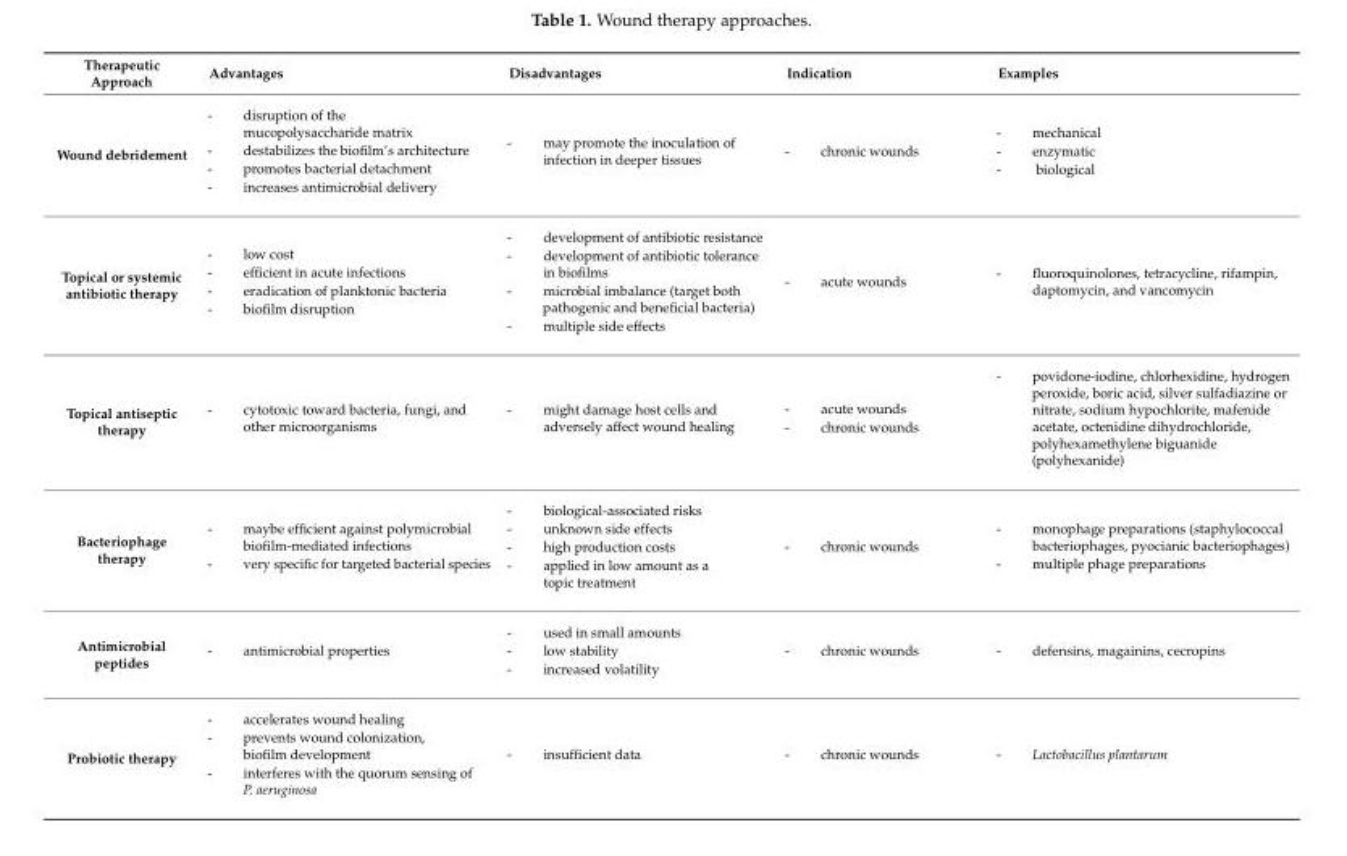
<table><thead><tr><td>Therapeutic Approach</td><td>Advantages</td><td>Disadvantages</td><td>Indication</td><td>Examples</td></tr></thead><tbody><tr><td>Wound debridement</td><td>- disruption of the mucopolysaccharide matrix - destabilizes the biofilm’s architecture - promotes bacterial detachment - increases antimicrobial delivery</td><td>- may promote the inoculation of infection in deeper tissues</td><td>- chronic wounds</td><td>- mechanical - enzymatic - biological</td></tr><tr><td>Topical or systemic antibiotic therapy</td><td>- low cost - efficient in acute infections - eradication of planktonic bacteria - biofilm disruption</td><td>- development of antibiotic resistance - development of antibiotic tolerance in biofilms - microbial imbalance (target both pathogenic and beneficial bacteria) - multiple side effects</td><td>- acute wounds</td><td>- fluoroquinolones, tetracycline, rifampin, daptomycin, and vancomycin</td></tr><tr><td>Topical antiseptic therapy</td><td>- cytotoxic toward bacteria, fungi, and other microorganisms</td><td>- might damage host cells and adversely affect wound healing</td><td>- acute wounds - chronic wounds</td><td>- povidone-iodine, chlorhexidine, hydrogen peroxide, boric acid, silver sulfadiazine or nitrate, sodium hypochlorite, mafenide acetate, octenidine dihydrochloride, polyhexamethylene biguanide (polyhexanide)</td></tr><tr><td>Bacteriophage therapy</td><td>- maybe efficient against polymicrobial biofilm-mediated infections - very specific for targeted bacterial species</td><td>- biological-associated risks - unknown side effects - high production costs - applied in low amount as a topic treatment</td><td>- chronic wounds</td><td>- monophage preparations (staphylococcal bacteriophages, pyocianic bacteriophages) - multiple phage preparations</td></tr><tr><td>Antimicrobial peptides</td><td>- antimicrobial properties</td><td>- used in small amounts - low stability - increased volatility</td><td>- chronic wounds</td><td>- defensins, magainins, cecropins</td></tr><tr><td>Probiotic therapy</td><td>- accelerates wound healing - prevents wound colonization, biofilm development - interferes with the quorum sensing of P. aeruginosa</td><td>- insufficient data</td><td>- chronic wounds</td><td>- Lactobacillus plantarum</td></tr></tbody></table>